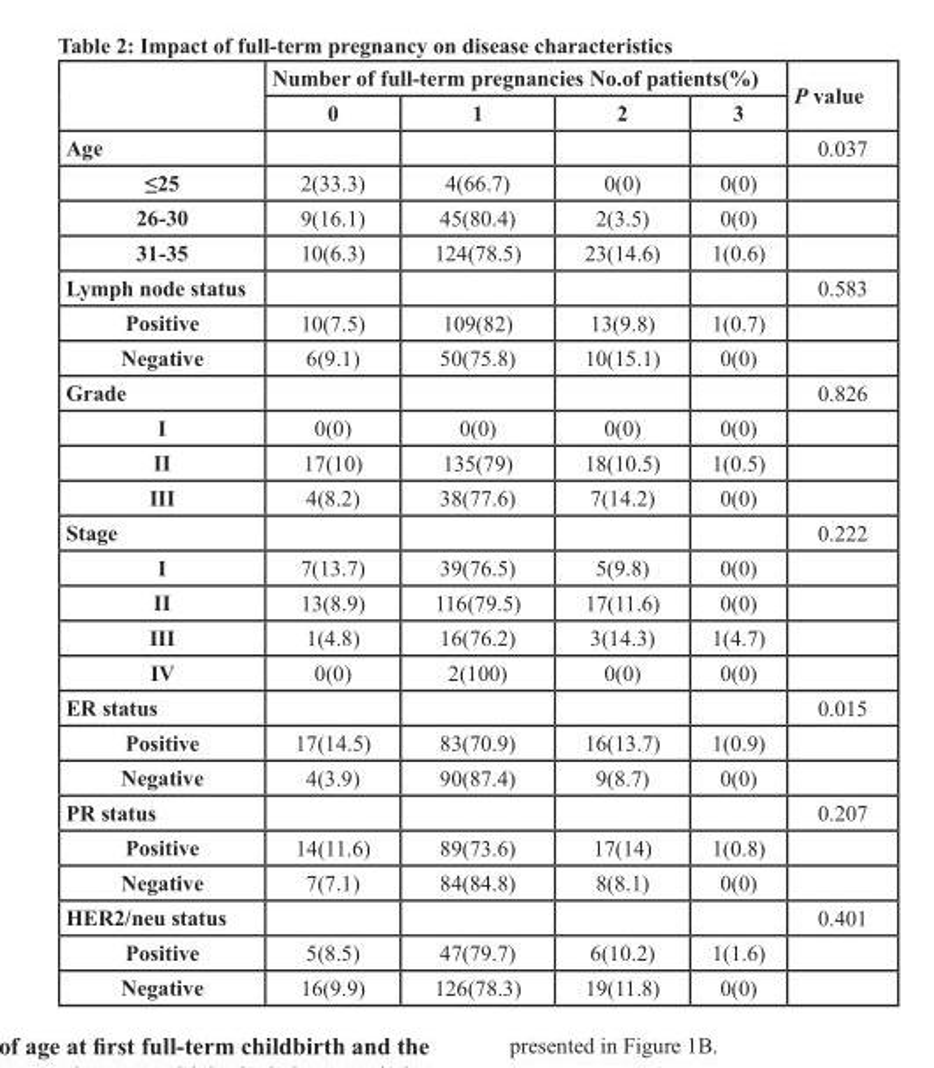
<table><thead><tr><td rowspan="2"></td><td colspan="4">Number of full-term pregnancies No.of patients(%)</td><td rowspan="2">P value</td></tr><tr><td>0</td><td>1</td><td>2</td><td>3</td></tr></thead><tbody><tr><td>Age</td><td></td><td></td><td></td><td></td><td>0.037</td></tr><tr><td>≤25</td><td>2(33.3)</td><td>4(66.7)</td><td>0(0)</td><td>0(0)</td><td></td></tr><tr><td>26-30</td><td>9(16.1)</td><td>45(80.4)</td><td>2(3.5)</td><td>0(0)</td><td></td></tr><tr><td>31-35</td><td>10(6.3)</td><td>124(78.5)</td><td>23(14.6)</td><td>1(0.6)</td><td></td></tr><tr><td>Lymph node status</td><td></td><td></td><td></td><td></td><td>0.583</td></tr><tr><td>Positive</td><td>10(7.5)</td><td>109(82)</td><td>13(9.8)</td><td>1(0.7)</td><td></td></tr><tr><td>Negative</td><td>6(9.1)</td><td>50(75.8)</td><td>10(15.1)</td><td>0(0)</td><td></td></tr><tr><td>Grade</td><td></td><td></td><td></td><td></td><td>0.826</td></tr><tr><td>I</td><td>0(0)</td><td>0(0)</td><td>0(0)</td><td>0(0)</td><td></td></tr><tr><td>II</td><td>17(10)</td><td>135(79)</td><td>18(10.5)</td><td>1(0.5)</td><td></td></tr><tr><td>III</td><td>4(8.2)</td><td>38(77.6)</td><td>7(14.2)</td><td>0(0)</td><td></td></tr><tr><td>Stage</td><td></td><td></td><td></td><td></td><td>0.222</td></tr><tr><td>I</td><td>7(13.7)</td><td>39(76.5)</td><td>5(9.8)</td><td>0(0)</td><td></td></tr><tr><td>II</td><td>13(8.9)</td><td>116(79.5)</td><td>17(11.6)</td><td>0(0)</td><td></td></tr><tr><td>III</td><td>1(4.8)</td><td>16(76.2)</td><td>3(14.3)</td><td>1(4.7)</td><td></td></tr><tr><td>IV</td><td>0(0)</td><td>2(100)</td><td>0(0)</td><td>0(0)</td><td></td></tr><tr><td>ER status</td><td></td><td></td><td></td><td></td><td>0.015</td></tr><tr><td>Positive</td><td>17(14.5)</td><td>83(70.9)</td><td>16(13.7)</td><td>1(0.9)</td><td></td></tr><tr><td>Negative</td><td>4(3.9)</td><td>90(87.4)</td><td>9(8.7)</td><td>0(0)</td><td></td></tr><tr><td>PR status</td><td></td><td></td><td></td><td></td><td>0.207</td></tr><tr><td>Positive</td><td>14(11.6)</td><td>89(73.6)</td><td>17(14)</td><td>1(0.8)</td><td></td></tr><tr><td>Negative</td><td>7(7.1)</td><td>84(84.8)</td><td>8(8.1)</td><td>0(0)</td><td></td></tr><tr><td>HER2/neu status</td><td></td><td></td><td></td><td></td><td>0.401</td></tr><tr><td>Positive</td><td>5(8.5)</td><td>47(79.7)</td><td>6(10.2)</td><td>1(1.6)</td><td></td></tr><tr><td>Negative</td><td>16(9.9)</td><td>126(78.3)</td><td>19(11.8)</td><td>0(0)</td><td></td></tr></tbody></table>